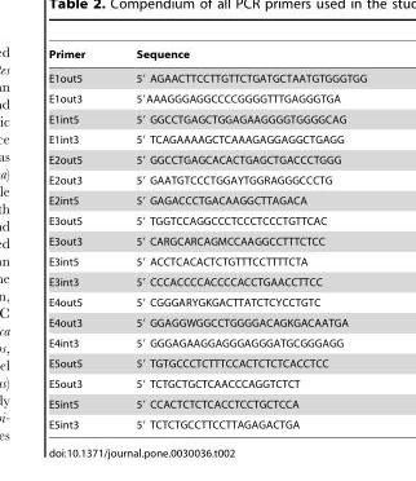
<table><thead><tr><td>Primer</td><td>Sequence</td></tr></thead><tbody><tr><td>E1out5</td><td>5′ AGAACTTCCTTGTTCTGATGCTAATGTGGGTGG</td></tr><tr><td>E1out3</td><td>5′AAAGGGAGGCCCCGGGGTTTGAGGGTGA</td></tr><tr><td>E1int5</td><td>5′ GGCCTGAGCTGGAGAAGGGGTGGGGCAG</td></tr><tr><td>E1int3</td><td>5′ TCAGAAAAGCTCAAAGAGGAGGCTGAGG</td></tr><tr><td>E2out5</td><td>5′ GGCCTGAGCACACTGAGCTGACCCTGGG</td></tr><tr><td>E2out3</td><td>5′ GAATGTCCCTGGAYTGGRAGGGCCCTG</td></tr><tr><td>E2int5</td><td>5′ GAGACCCTGACAAGGCTTAGACA</td></tr><tr><td>E3out5</td><td>5′ TGGTCCAGGCCCTCCCTCCCTGTTCAC</td></tr><tr><td>E3out3</td><td>5′ CARGCARCAGMCCAAGGCCTTTCTCC</td></tr><tr><td>E3int5</td><td>5′ ACCTCACACTCTGTTTCCTTTTCTA</td></tr><tr><td>E3int3</td><td>5′ CCCACCCCACCCCACCTGAACCTTCC</td></tr><tr><td>E4out5</td><td>5′ CGGGARYGKGACTTATCTCYCCTGTC</td></tr><tr><td>E4out3</td><td>5′ GGAGGWGGCCTGGGGACAGKGACAATGA</td></tr><tr><td>E4int3</td><td>5′ GGGAGAAGGAGGGAGGGATGCGGGAGG</td></tr><tr><td>E5out5</td><td>5′ TGTGCCCTCTTTCCACTCTCTCACCTCC</td></tr><tr><td>E5out3</td><td>5′ TCTGCTGCTCAACCCAGGTCTCT</td></tr><tr><td>E5int5</td><td>5′ CCACTCTCTCACCTCCTGCTCCA</td></tr><tr><td>E5int3</td><td>5′ TCTCTGCCTTCCTTAGAGACTGA</td></tr></tbody></table>